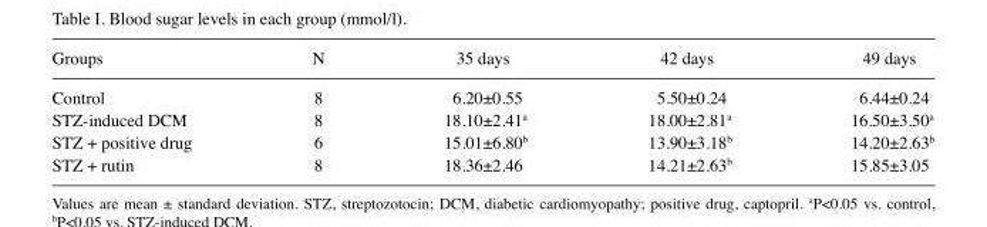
<table><thead><tr><td>Groups</td><td>N</td><td>35 days</td><td>42 days</td><td>49 days</td></tr></thead><tbody><tr><td>Control</td><td>8</td><td>6.20±0.55</td><td>5.50±0.24</td><td>6.44±0.24</td></tr><tr><td>STZ-induced DCM</td><td>8</td><td>18.10±2.41<sup>a</sup></td><td>18.00±2.81<sup>a</sup></td><td>16.50±3.50<sup>a</sup></td></tr><tr><td>STZ + positive drug</td><td>6</td><td>15.01±6.80<sup>b</sup></td><td>13.90±3.18<sup>b</sup></td><td>14.20±2.63<sup>b</sup></td></tr><tr><td>STZ + rutin</td><td>8</td><td>18.36±2.46</td><td>14.21±2.63<sup>b</sup></td><td>15.85±3.05</td></tr></tbody></table>